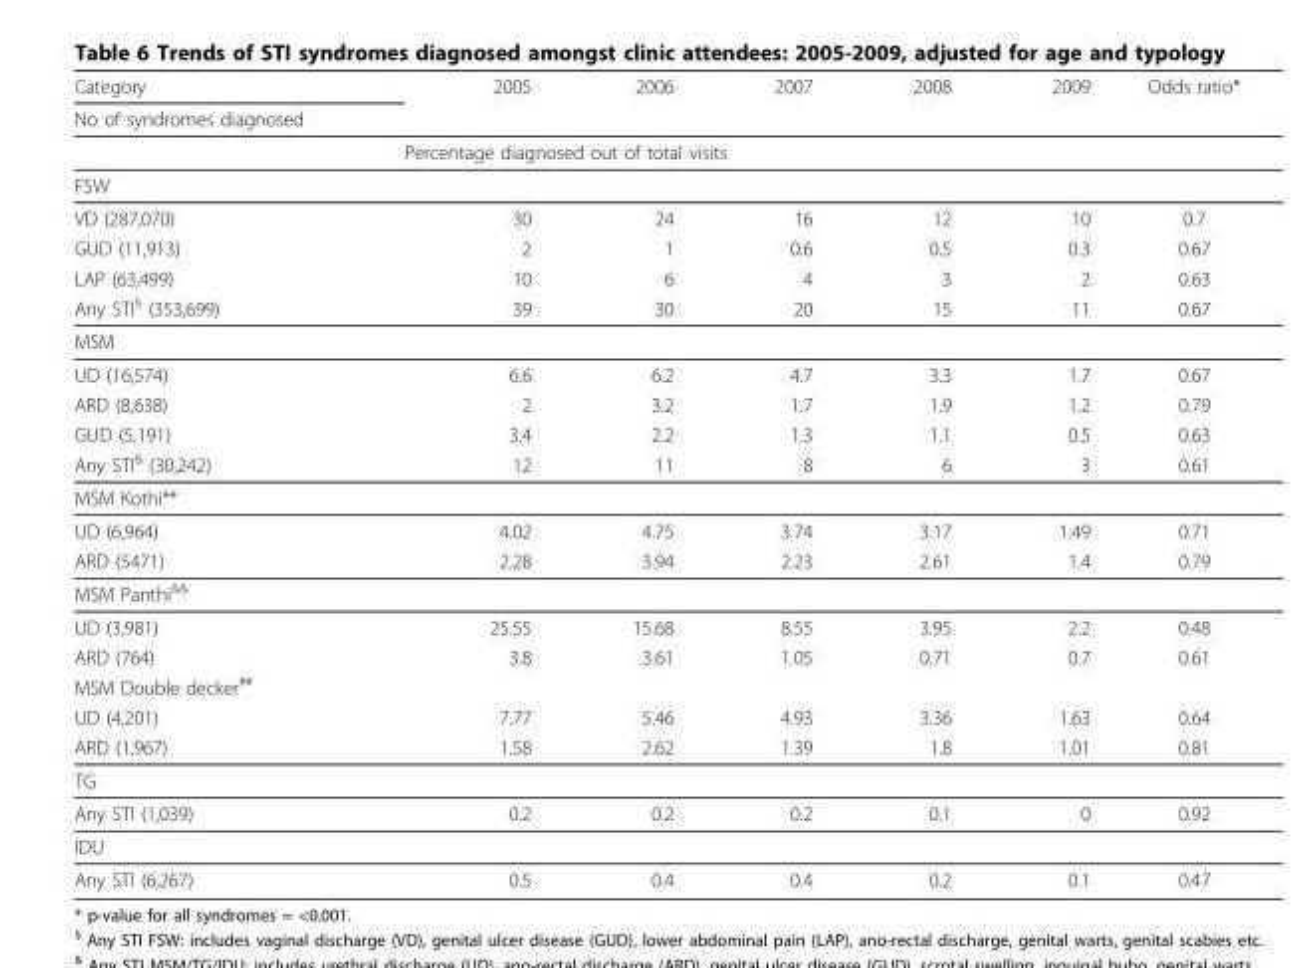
<table><thead><tr><td rowspan="2">Category No of syndromes diagnosed</td><td rowspan="2">2005</td><td rowspan="2">2006</td><td rowspan="2">2007</td><td rowspan="2">2008</td><td rowspan="2">2009</td><td rowspan="2">Odds ratio*</td></tr><tr></tr></thead><tbody><tr><td></td><td colspan="6">Percentage diagnosed out of total visits</td></tr><tr><td colspan="7">FSW</td></tr><tr><td>VD (287,070)</td><td>30</td><td>24</td><td>16</td><td>12</td><td>10</td><td>0.7</td></tr><tr><td>GUD (11,913)</td><td>2</td><td>1</td><td>0.6</td><td>0.5</td><td>0.3</td><td>0.67</td></tr><tr><td>LAP (63,499)</td><td>10</td><td>6</td><td>4</td><td>3</td><td>2</td><td>0.63</td></tr><tr><td>Any STI<sup>§</sup> (353,699)</td><td>39</td><td>30</td><td>20</td><td>15</td><td>11</td><td>0.67</td></tr><tr><td colspan="7">MSM</td></tr><tr><td>UD (16,574)</td><td>6.6</td><td>6.2</td><td>4.7</td><td>3.3</td><td>1.7</td><td>0.67</td></tr><tr><td>ARD (8,638)</td><td>2</td><td>3.2</td><td>1.7</td><td>1.9</td><td>1.2</td><td>0.79</td></tr><tr><td>GUD (5,191)</td><td>3.4</td><td>2.2</td><td>1.3</td><td>1.1</td><td>0.5</td><td>0.63</td></tr><tr><td>Any STI<sup>&amp;</sup> (30,242)</td><td>12</td><td>11</td><td>8</td><td>6</td><td>3</td><td>0.61</td></tr><tr><td colspan="7">MSM Kothi**</td></tr><tr><td>UD (6,964)</td><td>4.02</td><td>4.75</td><td>3.74</td><td>3.17</td><td>1.49</td><td>0.71</td></tr><tr><td>ARD (5471)</td><td>2.28</td><td>3.94</td><td>2.23</td><td>2.61</td><td>1.4</td><td>0.79</td></tr><tr><td colspan="7">MSM Panthi<sup>&amp;&amp;</sup></td></tr><tr><td>UD (3,981)</td><td>25.55</td><td>15.68</td><td>8.55</td><td>3.95</td><td>2.2</td><td>0.48</td></tr><tr><td>ARD (764)</td><td>3.8</td><td>3.61</td><td>1.05</td><td>0.71</td><td>0.7</td><td>0.61</td></tr><tr><td colspan="7">MSM Double decker<sup>##</sup></td></tr><tr><td>UD (4,201)</td><td>7.77</td><td>5.46</td><td>4.93</td><td>3.36</td><td>1.63</td><td>0.64</td></tr><tr><td>ARD (1,967)</td><td>1.58</td><td>2.62</td><td>1.39</td><td>1.8</td><td>1.01</td><td>0.81</td></tr><tr><td colspan="7">TG</td></tr><tr><td>Any STI (1,039)</td><td>0.2</td><td>0.2</td><td>0.2</td><td>0.1</td><td>0</td><td>0.92</td></tr><tr><td colspan="7">IDU</td></tr><tr><td>Any STI (6,267)</td><td>0.5</td><td>0.4</td><td>0.4</td><td>0.2</td><td>0.1</td><td>0.47</td></tr></tbody></table>